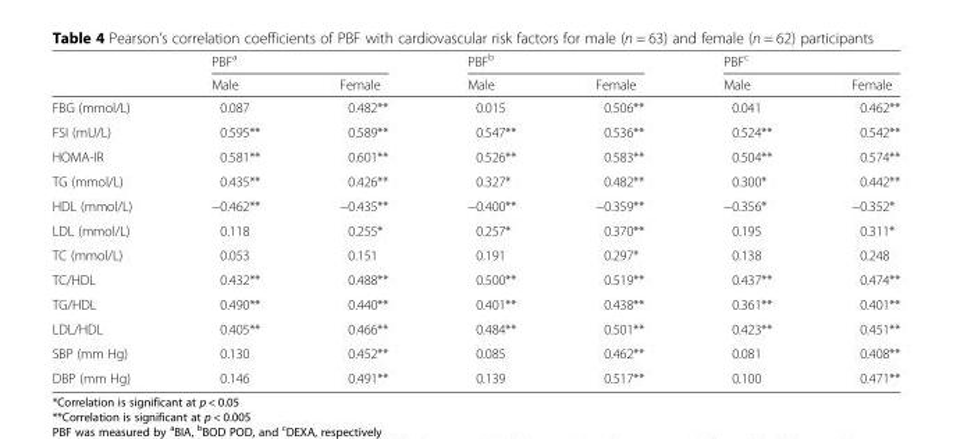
<table><thead><tr><td rowspan="2"></td><td colspan="2">PBF<sup>a</sup></td><td colspan="2">PBF<sup>b</sup></td><td colspan="2">PBF<sup>c</sup></td></tr><tr><td>Male</td><td>Female</td><td>Male</td><td>Female</td><td>Male</td><td>Female</td></tr></thead><tbody><tr><td>FBG (mmol/L)</td><td>0.087</td><td>0.482**</td><td>0.015</td><td>0.506**</td><td>0.041</td><td>0.462**</td></tr><tr><td>FSI (mU/L)</td><td>0.595**</td><td>0.589**</td><td>0.547**</td><td>0.536**</td><td>0.524**</td><td>0.542**</td></tr><tr><td>HOMA-IR</td><td>0.581**</td><td>0.601**</td><td>0.526**</td><td>0.583**</td><td>0.504**</td><td>0.574**</td></tr><tr><td>TG (mmol/L)</td><td>0.435**</td><td>0.426**</td><td>0.327*</td><td>0.482**</td><td>0.300*</td><td>0.442**</td></tr><tr><td>HDL (mmol/L)</td><td>−0.462**</td><td>−0.435**</td><td>−0.400**</td><td>−0.359**</td><td>−0.356*</td><td>−0.352*</td></tr><tr><td>LDL (mmol/L)</td><td>0.118</td><td>0.255*</td><td>0.257*</td><td>0.370**</td><td>0.195</td><td>0.311*</td></tr><tr><td>TC (mmol/L)</td><td>0.053</td><td>0.151</td><td>0.191</td><td>0.297*</td><td>0.138</td><td>0.248</td></tr><tr><td>TC/HDL</td><td>0.432**</td><td>0.488**</td><td>0.500**</td><td>0.519**</td><td>0.437**</td><td>0.474**</td></tr><tr><td>TG/HDL</td><td>0.490**</td><td>0.440**</td><td>0.401**</td><td>0.438**</td><td>0.361**</td><td>0.401**</td></tr><tr><td>LDL/HDL</td><td>0.405**</td><td>0.466**</td><td>0.484**</td><td>0.501**</td><td>0.423**</td><td>0.451**</td></tr><tr><td>SBP (mm Hg)</td><td>0.130</td><td>0.452**</td><td>0.085</td><td>0.462**</td><td>0.081</td><td>0.408**</td></tr><tr><td>DBP (mm Hg)</td><td>0.146</td><td>0.491**</td><td>0.139</td><td>0.517**</td><td>0.100</td><td>0.471**</td></tr></tbody></table>